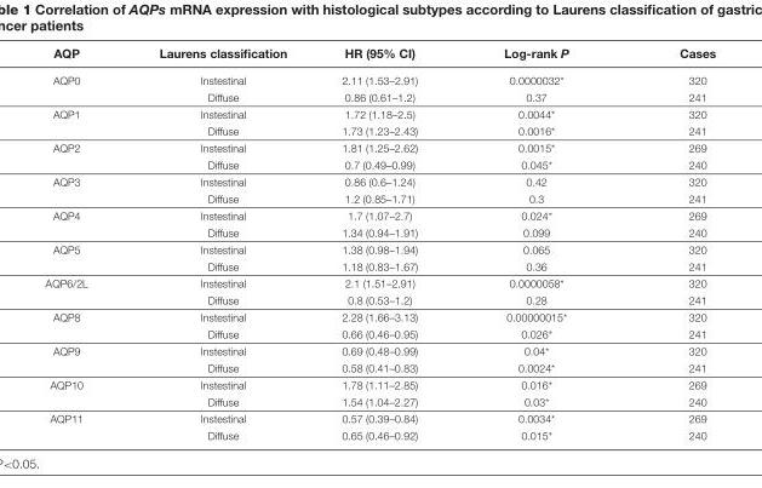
<table><thead><tr><td>AQP</td><td>Laurens classification</td><td>HR (95% CI)</td><td>Log-rank P</td><td>Cases</td></tr></thead><tbody><tr><td rowspan="2">AQP0</td><td>Instestinal</td><td>2.11 (1.53–2.91)</td><td>0.0000032*</td><td>320</td></tr><tr><td>Diffuse</td><td>0.86 (0.61–1.2)</td><td>0.37</td><td>241</td></tr><tr><td rowspan="2">AQP1</td><td>Instestinal</td><td>1.72 (1.18–2.5)</td><td>0.0044*</td><td>320</td></tr><tr><td>Diffuse</td><td>1.73 (1.23–2.43)</td><td>0.0016*</td><td>241</td></tr><tr><td rowspan="2">AQP2</td><td>Instestinal</td><td>1.81 (1.25–2.62)</td><td>0.0015*</td><td>269</td></tr><tr><td>Diffuse</td><td>0.7 (0.49–0.99)</td><td>0.045*</td><td>240</td></tr><tr><td rowspan="2">AQP3</td><td>Instestinal</td><td>0.86 (0.6–1.24)</td><td>0.42</td><td>320</td></tr><tr><td>Diffuse</td><td>1.2 (0.85–1.71)</td><td>0.3</td><td>241</td></tr><tr><td rowspan="2">AQP4</td><td>Instestinal</td><td>1.7 (1.07–2.7)</td><td>0.024*</td><td>269</td></tr><tr><td>Diffuse</td><td>1.34 (0.94–1.91)</td><td>0.099</td><td>240</td></tr><tr><td rowspan="2">AQP5</td><td>Instestinal</td><td>1.38 (0.98–1.94)</td><td>0.065</td><td>320</td></tr><tr><td>Diffuse</td><td>1.18 (0.83–1.67)</td><td>0.36</td><td>241</td></tr><tr><td rowspan="2">AQP6/2L</td><td>Instestinal</td><td>2.1 (1.51–2.91)</td><td>0.0000058*</td><td>320</td></tr><tr><td>Diffuse</td><td>0.8 (0.53–1.2)</td><td>0.28</td><td>241</td></tr><tr><td rowspan="2">AQP8</td><td>Instestinal</td><td>2.28 (1.66–3.13)</td><td>0.00000015*</td><td>320</td></tr><tr><td>Diffuse</td><td>0.66 (0.46–0.95)</td><td>0.026*</td><td>241</td></tr><tr><td rowspan="2">AQP9</td><td>Instestinal</td><td>0.69 (0.48–0.99)</td><td>0.04*</td><td>320</td></tr><tr><td>Diffuse</td><td>0.58 (0.41–0.83)</td><td>0.0024*</td><td>241</td></tr><tr><td rowspan="2">AQP10</td><td>Instestinal</td><td>1.78 (1.11–2.85)</td><td>0.016*</td><td>269</td></tr><tr><td>Diffuse</td><td>1.54 (1.04–2.27)</td><td>0.03*</td><td>240</td></tr><tr><td rowspan="2">AQP11</td><td>Instestinal</td><td>0.57 (0.39–0.84)</td><td>0.0034*</td><td>269</td></tr><tr><td>Diffuse</td><td>0.65 (0.46–0.92)</td><td>0.015*</td><td>240</td></tr></tbody></table>